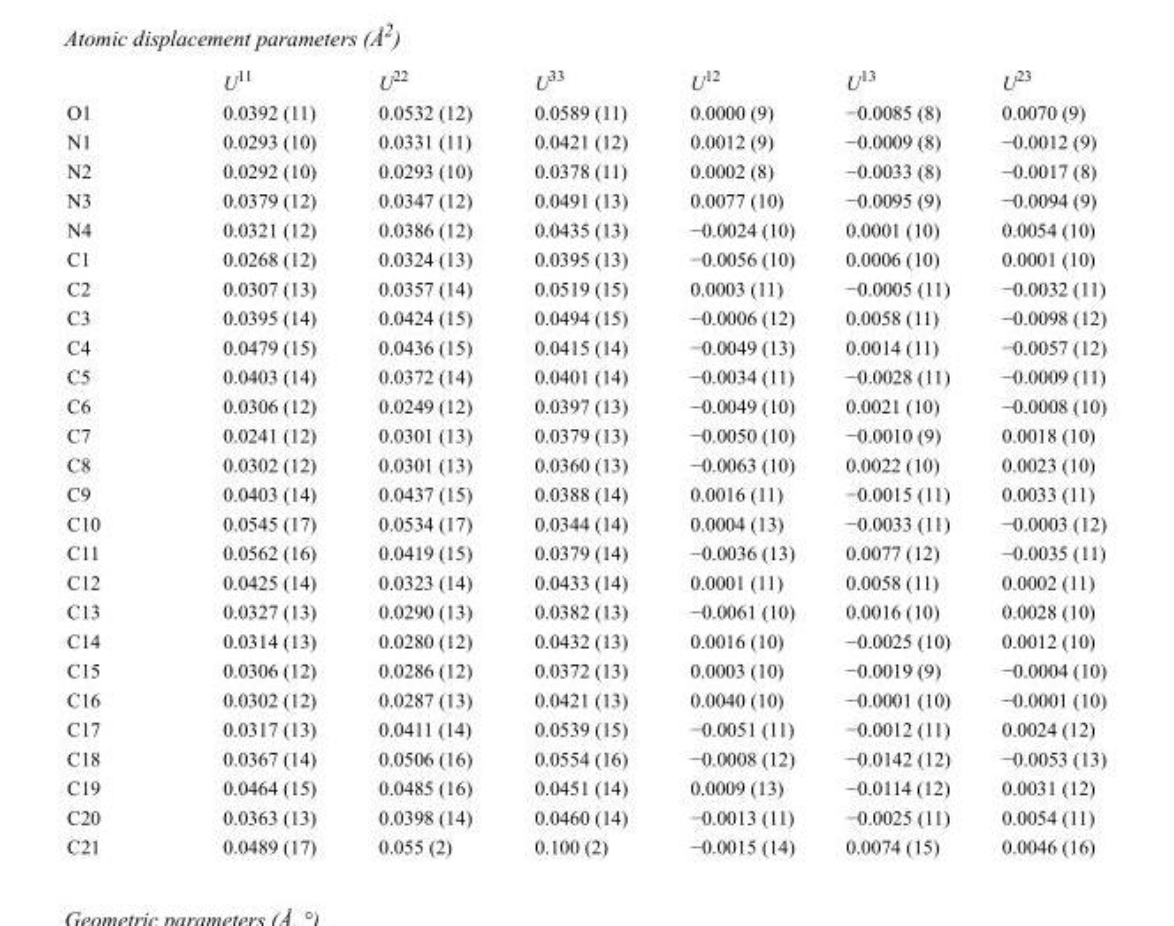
<table><thead><tr><td></td><td>U<sup>11</sup></td><td>U<sup>22</sup></td><td>U<sup>33</sup></td><td>U<sup>12</sup></td><td>U<sup>13</sup></td><td>U<sup>23</sup></td></tr></thead><tbody><tr><td>O1</td><td>0.0392 (11)</td><td>0.0532 (12)</td><td>0.0589 (11)</td><td>0.0000 (9)</td><td>−0.0085 (8)</td><td>0.0070 (9)</td></tr><tr><td>N1</td><td>0.0293 (10)</td><td>0.0331 (11)</td><td>0.0421 (12)</td><td>0.0012 (9)</td><td>−0.0009 (8)</td><td>−0.0012 (9)</td></tr><tr><td>N2</td><td>0.0292 (10)</td><td>0.0293 (10)</td><td>0.0378 (11)</td><td>0.0002 (8)</td><td>−0.0033 (8)</td><td>−0.0017 (8)</td></tr><tr><td>N3</td><td>0.0379 (12)</td><td>0.0347 (12)</td><td>0.0491 (13)</td><td>0.0077 (10)</td><td>−0.0095 (9)</td><td>−0.0094 (9)</td></tr><tr><td>N4</td><td>0.0321 (12)</td><td>0.0386 (12)</td><td>0.0435 (13)</td><td>−0.0024 (10)</td><td>0.0001 (10)</td><td>0.0054 (10)</td></tr><tr><td>C1</td><td>0.0268 (12)</td><td>0.0324 (13)</td><td>0.0395 (13)</td><td>−0.0056 (10)</td><td>0.0006 (10)</td><td>0.0001 (10)</td></tr><tr><td>C2</td><td>0.0307 (13)</td><td>0.0357 (14)</td><td>0.0519 (15)</td><td>0.0003 (11)</td><td>−0.0005 (11)</td><td>−0.0032 (11)</td></tr><tr><td>C3</td><td>0.0395 (14)</td><td>0.0424 (15)</td><td>0.0494 (15)</td><td>−0.0006 (12)</td><td>0.0058 (11)</td><td>−0.0098 (12)</td></tr><tr><td>C4</td><td>0.0479 (15)</td><td>0.0436 (15)</td><td>0.0415 (14)</td><td>−0.0049 (13)</td><td>0.0014 (11)</td><td>−0.0057 (12)</td></tr><tr><td>C5</td><td>0.0403 (14)</td><td>0.0372 (14)</td><td>0.0401 (14)</td><td>−0.0034 (11)</td><td>−0.0028 (11)</td><td>−0.0009 (11)</td></tr><tr><td>C6</td><td>0.0306 (12)</td><td>0.0249 (12)</td><td>0.0397 (13)</td><td>−0.0049 (10)</td><td>0.0021 (10)</td><td>−0.0008 (10)</td></tr><tr><td>C7</td><td>0.0241 (12)</td><td>0.0301 (13)</td><td>0.0379 (13)</td><td>−0.0050 (10)</td><td>−0.0010 (9)</td><td>0.0018 (10)</td></tr><tr><td>C8</td><td>0.0302 (12)</td><td>0.0301 (13)</td><td>0.0360 (13)</td><td>−0.0063 (10)</td><td>0.0022 (10)</td><td>0.0023 (10)</td></tr><tr><td>C9</td><td>0.0403 (14)</td><td>0.0437 (15)</td><td>0.0388 (14)</td><td>0.0016 (11)</td><td>−0.0015 (11)</td><td>0.0033 (11)</td></tr><tr><td>C10</td><td>0.0545 (17)</td><td>0.0534 (17)</td><td>0.0344 (14)</td><td>0.0004 (13)</td><td>−0.0033 (11)</td><td>−0.0003 (12)</td></tr><tr><td>C11</td><td>0.0562 (16)</td><td>0.0419 (15)</td><td>0.0379 (14)</td><td>−0.0036 (13)</td><td>0.0077 (12)</td><td>−0.0035 (11)</td></tr><tr><td>C12</td><td>0.0425 (14)</td><td>0.0323 (14)</td><td>0.0433 (14)</td><td>0.0001 (11)</td><td>0.0058 (11)</td><td>0.0002 (11)</td></tr><tr><td>C13</td><td>0.0327 (13)</td><td>0.0290 (13)</td><td>0.0382 (13)</td><td>−0.0061 (10)</td><td>0.0016 (10)</td><td>0.0028 (10)</td></tr><tr><td>C14</td><td>0.0314 (13)</td><td>0.0280 (12)</td><td>0.0432 (13)</td><td>0.0016 (10)</td><td>−0.0025 (10)</td><td>0.0012 (10)</td></tr><tr><td>C15</td><td>0.0306 (12)</td><td>0.0286 (12)</td><td>0.0372 (13)</td><td>0.0003 (10)</td><td>−0.0019 (9)</td><td>−0.0004 (10)</td></tr><tr><td>C16</td><td>0.0302 (12)</td><td>0.0287 (13)</td><td>0.0421 (13)</td><td>0.0040 (10)</td><td>−0.0001 (10)</td><td>−0.0001 (10)</td></tr><tr><td>C17</td><td>0.0317 (13)</td><td>0.0411 (14)</td><td>0.0539 (15)</td><td>−0.0051 (11)</td><td>−0.0012 (11)</td><td>0.0024 (12)</td></tr><tr><td>C18</td><td>0.0367 (14)</td><td>0.0506 (16)</td><td>0.0554 (16)</td><td>−0.0008 (12)</td><td>−0.0142 (12)</td><td>−0.0053 (13)</td></tr><tr><td>C19</td><td>0.0464 (15)</td><td>0.0485 (16)</td><td>0.0451 (14)</td><td>0.0009 (13)</td><td>−0.0114 (12)</td><td>0.0031 (12)</td></tr><tr><td>C20</td><td>0.0363 (13)</td><td>0.0398 (14)</td><td>0.0460 (14)</td><td>−0.0013 (11)</td><td>−0.0025 (11)</td><td>0.0054 (11)</td></tr><tr><td>C21</td><td>0.0489 (17)</td><td>0.055 (2)</td><td>0.100 (2)</td><td>−0.0015 (14)</td><td>0.0074 (15)</td><td>0.0046 (16)</td></tr></tbody></table>